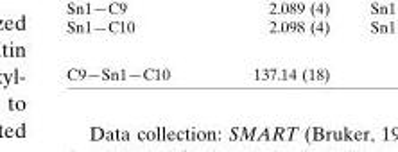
<table><tbody><tr><td>C9—Sn1—C10</td><td>137.14 (18)</td></tr></tbody></table>